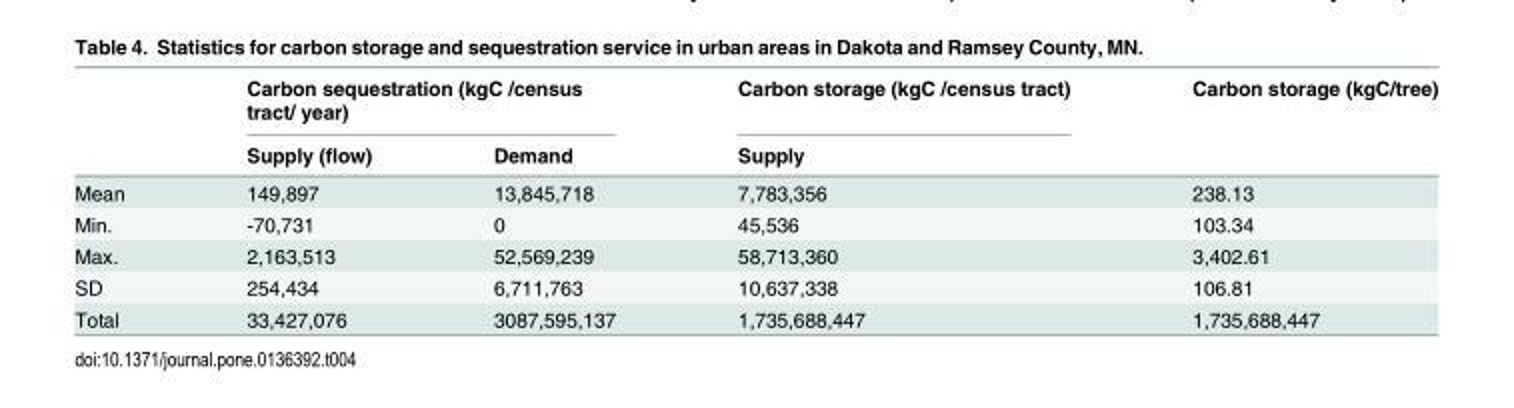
<table><thead><tr><td rowspan="2"></td><td colspan="2">Carbon sequestration (kgC /census tract/ year)</td><td rowspan="2">Carbon storage (kgC /census tract) Supply</td><td rowspan="2">Carbon storage (kgC/tree)</td></tr><tr><td>Supply (flow)</td><td>Demand</td></tr></thead><tbody><tr><td>Mean</td><td>149,897</td><td>13,845,718</td><td>7,783,356</td><td>238.13</td></tr><tr><td>Min.</td><td>-70,731</td><td>0</td><td>45,536</td><td>103.34</td></tr><tr><td>Max.</td><td>2,163,513</td><td>52,569,239</td><td>58,713,360</td><td>3,402.61</td></tr><tr><td>SD</td><td>254,434</td><td>6,711,763</td><td>10,637,338</td><td>106.81</td></tr><tr><td>Total</td><td>33,427,076</td><td>3087,595,137</td><td>1,735,688,447</td><td>1,735,688,447</td></tr></tbody></table>